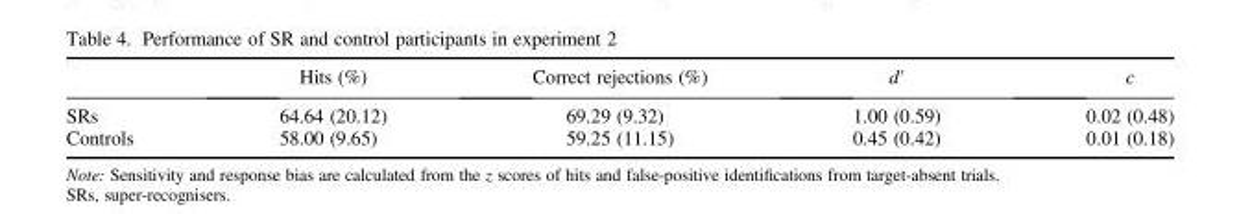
<table><thead><tr><td></td><td>Hits (%)</td><td>Correct rejections (%)</td><td>d′</td><td>c</td></tr></thead><tbody><tr><td>SRs</td><td>64.64 (20.12)</td><td>69.29 (9.32)</td><td>1.00 (0.59)</td><td>0.02 (0.48)</td></tr><tr><td>Controls</td><td>58.00 (9.65)</td><td>59.25 (11.15)</td><td>0.45 (0.42)</td><td>0.01 (0.18)</td></tr></tbody></table>